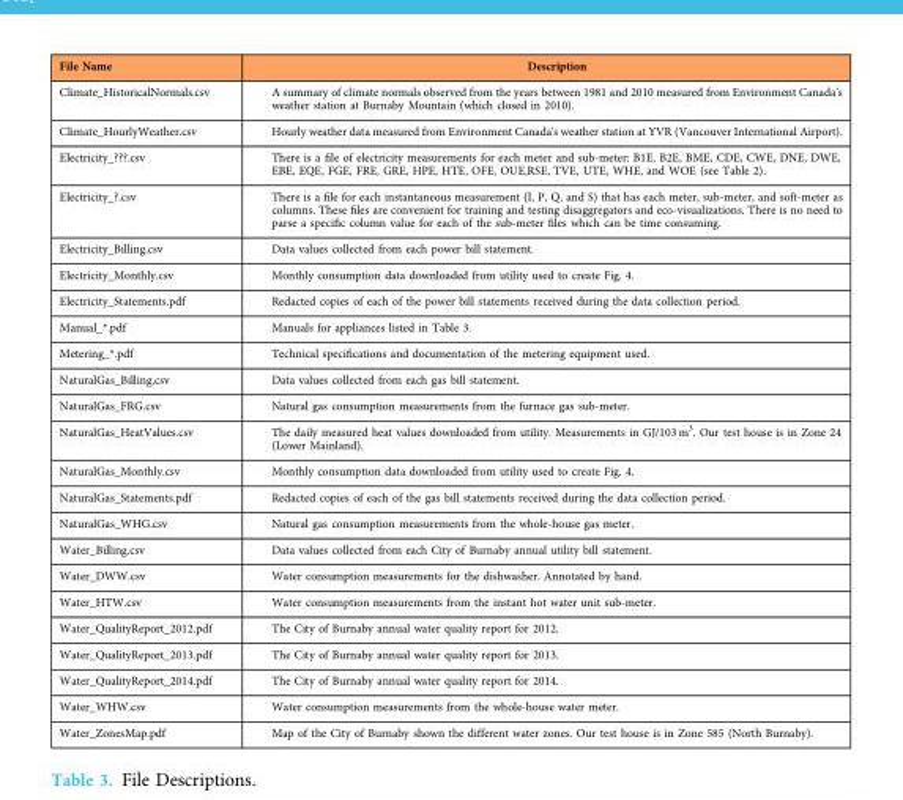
<table><thead><tr><td>File Name</td><td>Description</td></tr></thead><tbody><tr><td>Climate_HistoricalNormals.csv</td><td>A summary of climate normals observed from the years between 1981 and 2010 measured from Environment Canada’s weather station at Burnaby Mountain (which closed in 2010).</td></tr><tr><td>Climate_HourlyWeather.csv</td><td>Hourly weather data measured from Environment Canada&#x27;s weather station at YVR (Vancouver International Airport).</td></tr><tr><td>Electricity_???.csv</td><td>There is a file of electricity measurements for each meter and sub-meter: B1E, B2E, BME, CDE, CWE, DNE, DWE, EBE, EQE, FGE, FRE, GRE, HPE, HTE, OFE, OUE,RSE, TVE, UTE, WHE, and WOE (see Table 2).</td></tr><tr><td>Electricity_?.csv</td><td>There is a file for each instantaneous measurement (I, P, Q, and S) that has each meter, sub-meter, and soft-meter as columns. These files are convenient for training and testing disaggregators and eco-visualizations. There is no need to parse a specific column value for each of the sub-meter files which can be time consuming.</td></tr><tr><td>Electricity_Billing.csv</td><td>Data values collected from each power bill statement.</td></tr><tr><td>Electricity_Monthly.csv</td><td>Monthly consumption data downloaded from utility used to create Fig. 4.</td></tr><tr><td>Electricity_Statements.pdf</td><td>Redacted copies of each of the power bill statements received during the data collection period.</td></tr><tr><td>Manual_*.pdf</td><td>Manuals for appliances listed in Table 3.</td></tr><tr><td>Metering_*.pdf</td><td>Technical specifications and documentation of the metering equipment used.</td></tr><tr><td>NaturalGas_Billing.csv</td><td>Data values collected from each gas bill statement.</td></tr><tr><td>NaturalGas_FRG.csv</td><td>Natural gas consumption measurements from the furnace gas sub-meter.</td></tr><tr><td>NaturalGas_HeatValues.csv</td><td>The daily measured heat values downloaded from utility. Measurements in GJ/103 m<sup>3</sup>. Our test house is in Zone 24 (Lower Mainland).</td></tr><tr><td>NaturalGas_Monthly.csv</td><td>Monthly consumption data downloaded from utility used to create Fig. 4.</td></tr><tr><td>NaturalGas_Statements.pdf</td><td>Redacted copies of each of the gas bill statements received during the data collection period.</td></tr><tr><td>NaturalGas_WHG.csv</td><td>Natural gas consumption measurements from the whole-house gas meter.</td></tr><tr><td>Water_Billing.csv</td><td>Data values collected from each City of Burnaby annual utility bill statement.</td></tr><tr><td>Water_DWW.csv</td><td>Water consumption measurements for the dishwasher. Annotated by hand.</td></tr><tr><td>Water_HTW.csv</td><td>Water consumption measurements from the instant hot water unit sub-meter.</td></tr><tr><td>Water_QualityReport_2012.pdf</td><td>The City of Burnaby annual water quality report for 2012.</td></tr><tr><td>Water_QualityReport_2013.pdf</td><td>The City of Burnaby annual water quality report for 2013.</td></tr><tr><td>Water_QualityReport_2014.pdf</td><td>The City of Burnaby annual water quality report for 2014.</td></tr><tr><td>Water_WHW.csv</td><td>Water consumption measurements from the whole-house water meter.</td></tr><tr><td>Water_ZonesMap.pdf</td><td>Map of the City of Burnaby shown the different water zones. Our test house is in Zone 585 (North Burnaby).</td></tr></tbody></table>